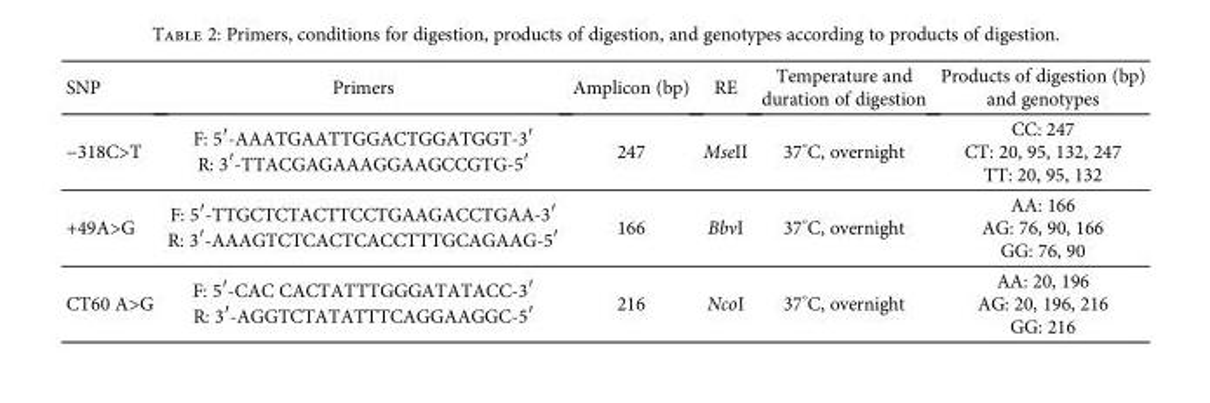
<table><thead><tr><td>SNP</td><td>Primers</td><td>Amplicon (bp)</td><td>RE</td><td>Temperature and duration of digestion</td><td>Products of digestion (bp) and genotypes</td></tr></thead><tbody><tr><td>−318C&gt;T</td><td>F: 5′-AAATGAATTGGACTGGATGGT-3′ R: 3′-TTACGAGAAAGGAAGCCGTG-5′</td><td>247</td><td>MseII</td><td>37°C, overnight</td><td>CC: 247 CT: 20, 95, 132, 247 TT: 20, 95, 132</td></tr><tr><td>+49A&gt;G</td><td>F: 5′-TTGCTCTACTTCCTGAAGACCTGAA-3′ R: 3′-AAAGTCTCACTCACCTTTGCAGAAG-5′</td><td>166</td><td>BbvI</td><td>37°C, overnight</td><td>AA: 166 AG: 76, 90, 166 GG: 76, 90</td></tr><tr><td>CT60 A&gt;G</td><td>F: 5′-CAC CACTATTTGGGATATACC-3′ R: 3′-AGGTCTATATTTCAGGAAGGC-5′</td><td>216</td><td>NcoI</td><td>37°C, overnight</td><td>AA: 20, 196 AG: 20, 196, 216 GG: 216</td></tr></tbody></table>